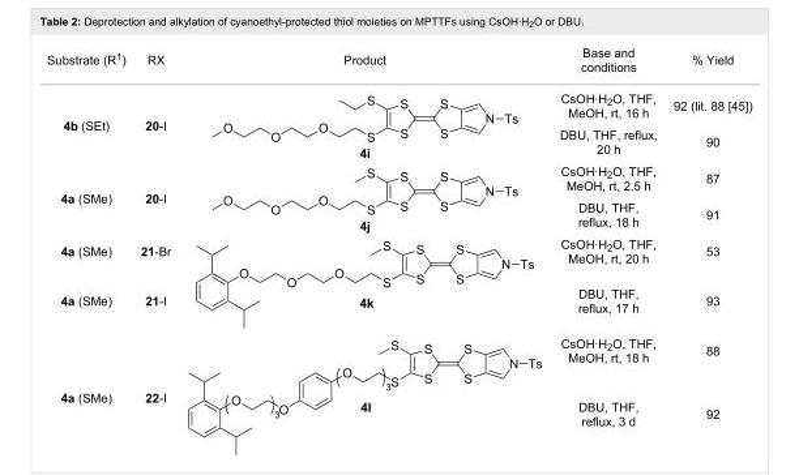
<table><tbody><tr><td>Substrate (R<sup>1</sup>)</td><td>RX</td><td>Product</td><td>Base and conditions</td><td>% Yield</td></tr><tr><td rowspan="2">4b (SEt)</td><td rowspan="2">20-I</td><td rowspan="2">4i</td><td>CsOH·H<sub>2</sub>O, THF, MeOH, rt, 16 h</td><td>92 (lit. 88 [45])</td></tr><tr><td>DBU, THF, reflux, 20 h</td><td>90</td></tr><tr><td rowspan="2">4a (SMe)</td><td rowspan="2">20-I</td><td rowspan="2">4j</td><td>CsOH·H<sub>2</sub>O, THF, MeOH, rt, 2.5 h</td><td>87</td></tr><tr><td>DBU, THF, reflux, 18 h</td><td>91</td></tr><tr><td>4a (SMe)</td><td>21-Br</td><td rowspan="2"></td><td>CsOH·H<sub>2</sub>O, THF, MeOH, rt, 20 h</td><td>53</td></tr><tr><td>4a (SMe)</td><td>21-I</td><td>DBU, THF, reflux, 17 h</td><td>93</td></tr><tr><td rowspan="2">4a (SMe)</td><td rowspan="2">22-I</td><td rowspan="2"></td><td>CsOH·H<sub>2</sub>O, THF, MeOH, rt, 18 h</td><td>88</td></tr><tr><td>DBU, THF, reflux, 3 d</td><td>92</td></tr></tbody></table>